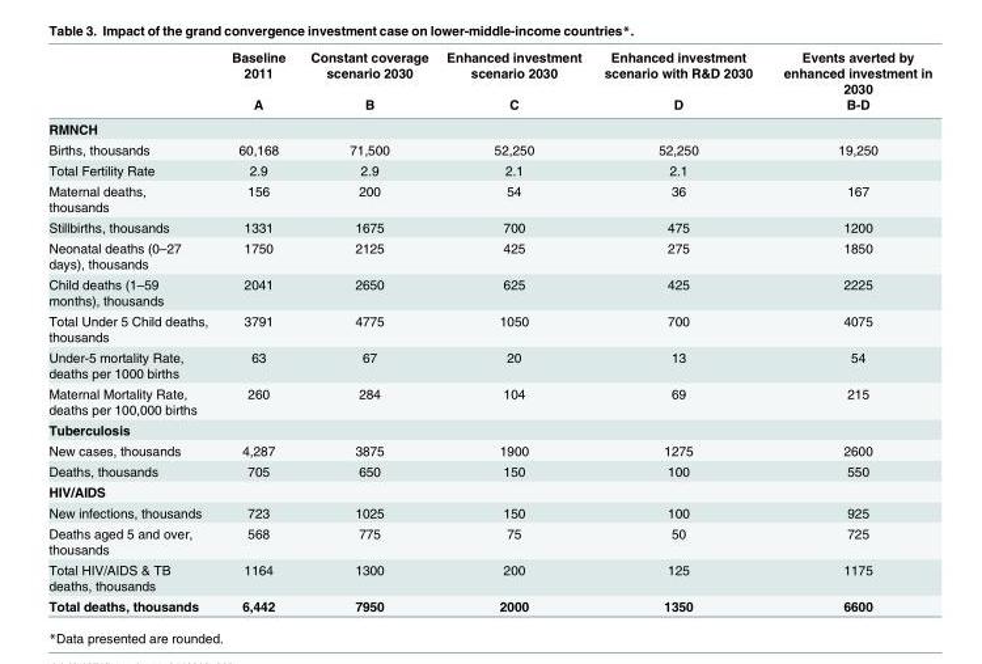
<table><thead><tr><td rowspan="2"></td><td rowspan="2">Baseline 2011 A</td><td rowspan="2">Constant coverage scenario 2030 B</td><td rowspan="2">Enhanced investment scenario 2030 C</td><td rowspan="2">Enhanced investment scenario with R&amp;D 2030 D</td><td rowspan="2">Events averted by enhanced investment in 2030 B-D</td></tr><tr></tr></thead><tbody><tr><td colspan="6">RMNCH</td></tr><tr><td>Births, thousands</td><td>60,168</td><td>71,500</td><td>52,250</td><td>52,250</td><td>19,250</td></tr><tr><td>Total Fertility Rate</td><td>2.9</td><td>2.9</td><td>2.1</td><td>2.1</td><td></td></tr><tr><td>Maternal deaths, thousands</td><td>156</td><td>200</td><td>54</td><td>36</td><td>167</td></tr><tr><td>Stillbirths, thousands</td><td>1331</td><td>1675</td><td>700</td><td>475</td><td>1200</td></tr><tr><td>Neonatal deaths (0–27 days), thousands</td><td>1750</td><td>2125</td><td>425</td><td>275</td><td>1850</td></tr><tr><td>Child deaths (1–59 months), thousands</td><td>2041</td><td>2650</td><td>625</td><td>425</td><td>2225</td></tr><tr><td>Total Under 5 Child deaths, thousands</td><td>3791</td><td>4775</td><td>1050</td><td>700</td><td>4075</td></tr><tr><td>Under-5 mortality Rate, deaths per 1000 births</td><td>63</td><td>67</td><td>20</td><td>13</td><td>54</td></tr><tr><td>Maternal Mortality Rate, deaths per 100,000 births</td><td>260</td><td>284</td><td>104</td><td>69</td><td>215</td></tr><tr><td colspan="6">Tuberculosis</td></tr><tr><td>New cases, thousands</td><td>4,287</td><td>3875</td><td>1900</td><td>1275</td><td>2600</td></tr><tr><td>Deaths, thousands</td><td>705</td><td>650</td><td>150</td><td>100</td><td>550</td></tr><tr><td colspan="6">HIV/AIDS</td></tr><tr><td>New infections, thousands</td><td>723</td><td>1025</td><td>150</td><td>100</td><td>925</td></tr><tr><td>Deaths aged 5 and over, thousands</td><td>568</td><td>775</td><td>75</td><td>50</td><td>725</td></tr><tr><td>Total HIV/AIDS &amp; TB deaths, thousands</td><td>1164</td><td>1300</td><td>200</td><td>125</td><td>1175</td></tr><tr><td>Total deaths, thousands</td><td>6,442</td><td>7950</td><td>2000</td><td>1350</td><td>6600</td></tr></tbody></table>